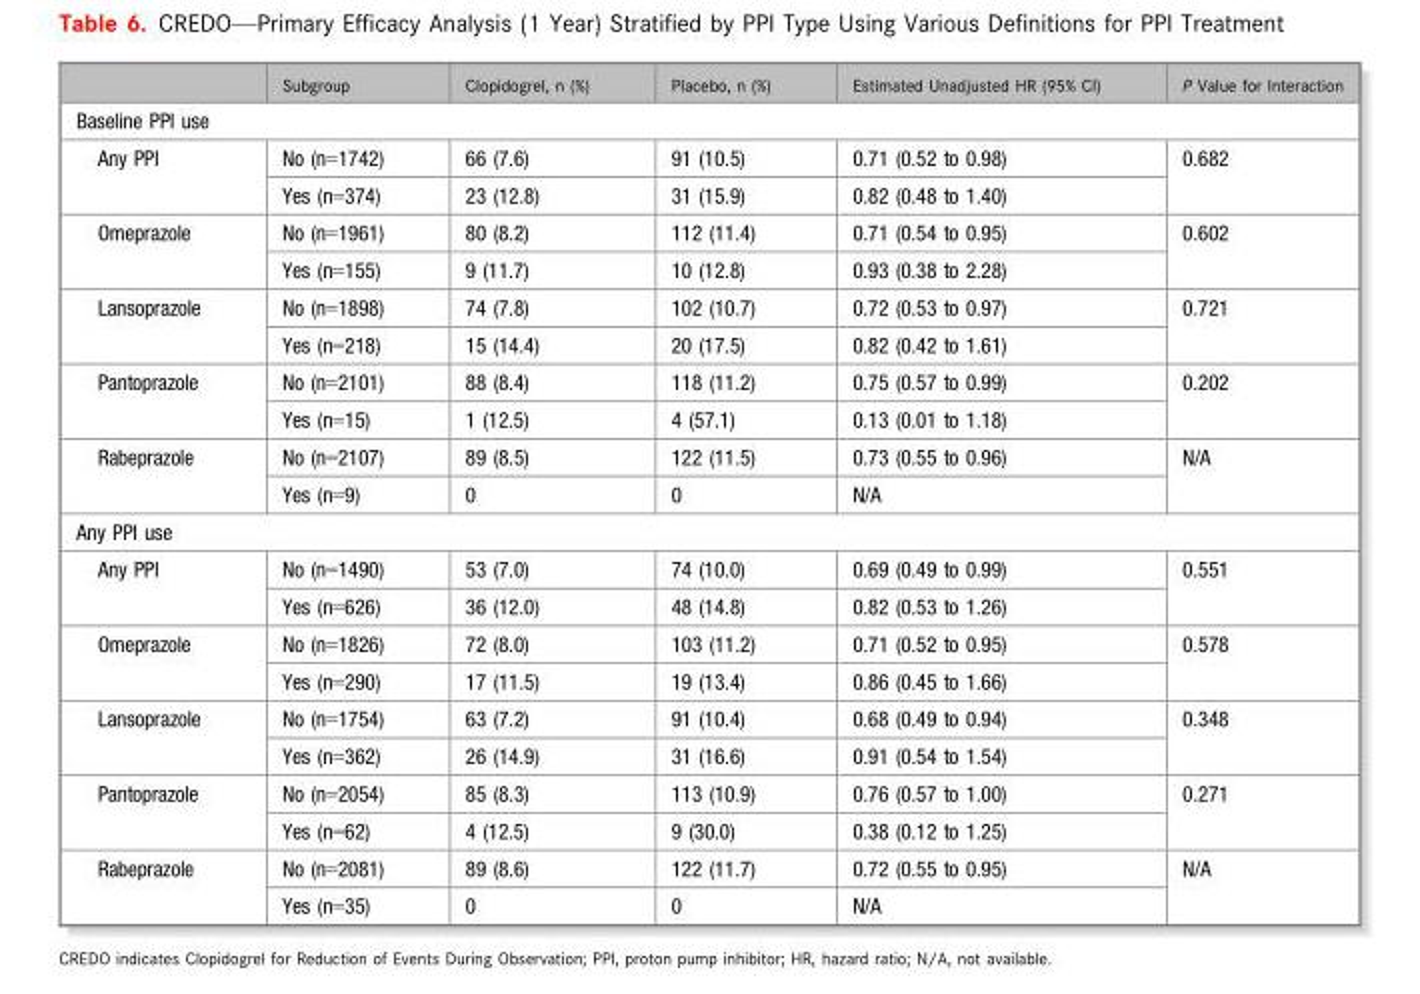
<table><thead><tr><td></td><td>Subgroup</td><td>Clopidogrel, n (%)</td><td>Placebo, n (%)</td><td>Estimated Unadjusted HR (95% CI)</td><td>P Value for Interaction</td></tr></thead><tbody><tr><td colspan="6">Baseline PPI use</td></tr><tr><td rowspan="2">Any PPI</td><td>No (n=1742)</td><td>66 (7.6)</td><td>91 (10.5)</td><td>0.71 (0.52 to 0.98)</td><td rowspan="2">0.682</td></tr><tr><td>Yes (n=374)</td><td>23 (12.8)</td><td>31 (15.9)</td><td>0.82 (0.48 to 1.40)</td></tr><tr><td rowspan="2">Omeprazole</td><td>No (n=1961)</td><td>80 (8.2)</td><td>112 (11.4)</td><td>0.71 (0.54 to 0.95)</td><td rowspan="2">0.602</td></tr><tr><td>Yes (n=155)</td><td>9 (11.7)</td><td>10 (12.8)</td><td>0.93 (0.38 to 2.28)</td></tr><tr><td rowspan="2">Lansoprazole</td><td>No (n=1898)</td><td>74 (7.8)</td><td>102 (10.7)</td><td>0.72 (0.53 to 0.97)</td><td rowspan="2">0.721</td></tr><tr><td>Yes (n=218)</td><td>15 (14.4)</td><td>20 (17.5)</td><td>0.82 (0.42 to 1.61)</td></tr><tr><td rowspan="2">Pantoprazole</td><td>No (n=2101)</td><td>88 (8.4)</td><td>118 (11.2)</td><td>0.75 (0.57 to 0.99)</td><td rowspan="2">0.202</td></tr><tr><td>Yes (n=15)</td><td>1 (12.5)</td><td>4 (57.1)</td><td>0.13 (0.01 to 1.18)</td></tr><tr><td rowspan="2">Rabeprazole</td><td>No (n=2107)</td><td>89 (8.5)</td><td>122 (11.5)</td><td>0.73 (0.55 to 0.96)</td><td rowspan="2">N/A</td></tr><tr><td>Yes (n=9)</td><td>0</td><td>0</td><td>N/A</td></tr><tr><td colspan="6">Any PPI use</td></tr><tr><td rowspan="2">Any PPI</td><td>No (n=1490)</td><td>53 (7.0)</td><td>74 (10.0)</td><td>0.69 (0.49 to 0.99)</td><td rowspan="2">0.551</td></tr><tr><td>Yes (n=626)</td><td>36 (12.0)</td><td>48 (14.8)</td><td>0.82 (0.53 to 1.26)</td></tr><tr><td rowspan="2">Omeprazole</td><td>No (n=1826)</td><td>72 (8.0)</td><td>103 (11.2)</td><td>0.71 (0.52 to 0.95)</td><td rowspan="2">0.578</td></tr><tr><td>Yes (n=290)</td><td>17 (11.5)</td><td>19 (13.4)</td><td>0.86 (0.45 to 1.66)</td></tr><tr><td rowspan="2">Lansoprazole</td><td>No (n=1754)</td><td>63 (7.2)</td><td>91 (10.4)</td><td>0.68 (0.49 to 0.94)</td><td rowspan="2">0.348</td></tr><tr><td>Yes (n=362)</td><td>26 (14.9)</td><td>31 (16.6)</td><td>0.91 (0.54 to 1.54)</td></tr><tr><td rowspan="2">Pantoprazole</td><td>No (n=2054)</td><td>85 (8.3)</td><td>113 (10.9)</td><td>0.76 (0.57 to 1.00)</td><td rowspan="2">0.271</td></tr><tr><td>Yes (n=62)</td><td>4 (12.5)</td><td>9 (30.0)</td><td>0.38 (0.12 to 1.25)</td></tr><tr><td rowspan="2">Rabeprazole</td><td>No (n=2081)</td><td>89 (8.6)</td><td>122 (11.7)</td><td>0.72 (0.55 to 0.95)</td><td rowspan="2">N/A</td></tr><tr><td>Yes (n=35)</td><td>0</td><td>0</td><td>N/A</td></tr></tbody></table>